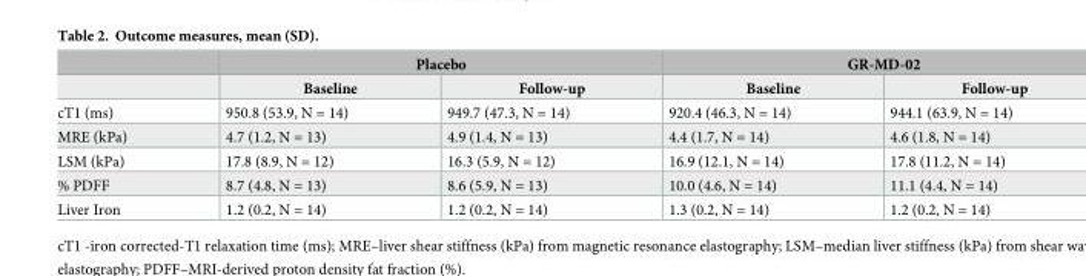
<table><thead><tr><td rowspan="2"></td><td colspan="2">Placebo</td><td colspan="2">GR-MD-02</td></tr><tr><td>Baseline</td><td>Follow-up</td><td>Baseline</td><td>Follow-up</td></tr></thead><tbody><tr><td>cT1 (ms)</td><td>950.8 (53.9, N = 14)</td><td>949.7 (47.3, N = 14)</td><td>920.4 (46.3, N = 14)</td><td>944.1 (63.9, N = 14)</td></tr><tr><td>MRE (kPa)</td><td>4.7 (1.2, N = 13)</td><td>4.9 (1.4, N = 13)</td><td>4.4 (1.7, N = 14)</td><td>4.6 (1.8, N = 14)</td></tr><tr><td>LSM (kPa)</td><td>17.8 (8.9, N = 12)</td><td>16.3 (5.9, N = 12)</td><td>16.9 (12.1, N = 14)</td><td>17.8 (11.2, N = 14)</td></tr><tr><td>% PDFF</td><td>8.7 (4.8, N = 13)</td><td>8.6 (5.9, N = 13)</td><td>10.0 (4.6, N = 14)</td><td>11.1 (4.4, N = 14)</td></tr><tr><td>Liver Iron</td><td>1.2 (0.2, N = 14)</td><td>1.2 (0.2, N = 14)</td><td>1.3 (0.2, N = 14)</td><td>1.2 (0.2, N = 14)</td></tr></tbody></table>